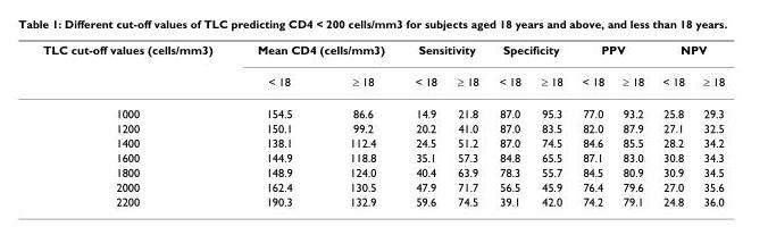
<table><thead><tr><td rowspan="2">TLC cut-off values (cells/mm3)</td><td colspan="2">Mean CD4 (cells/mm3)</td><td colspan="2">Sensitivity</td><td colspan="2">Specificity</td><td colspan="2">PPV</td><td colspan="2">NPV</td></tr><tr><td>&lt; 18</td><td>≥ 18</td><td>&lt; 18</td><td>≥ 18</td><td>&lt; 18</td><td>≥ 18</td><td>&lt; 18</td><td>≥ 18</td><td>&lt; 18</td><td>≥ 18</td></tr></thead><tbody><tr><td>1000</td><td>154.5</td><td>86.6</td><td>14.9</td><td>21.8</td><td>87.0</td><td>95.3</td><td>77.0</td><td>93.2</td><td>25.8</td><td>29.3</td></tr><tr><td>1200</td><td>150.1</td><td>99.2</td><td>20.2</td><td>41.0</td><td>87.0</td><td>83.5</td><td>82.0</td><td>87.9</td><td>27.1</td><td>32.5</td></tr><tr><td>1400</td><td>138.1</td><td>112.4</td><td>24.5</td><td>51.2</td><td>87.0</td><td>74.5</td><td>84.6</td><td>85.5</td><td>28.2</td><td>34.2</td></tr><tr><td>1600</td><td>144.9</td><td>118.8</td><td>35.1</td><td>57.3</td><td>84.8</td><td>65.5</td><td>87.1</td><td>83.0</td><td>30.8</td><td>34.3</td></tr><tr><td>1800</td><td>148.9</td><td>124.0</td><td>40.4</td><td>63.9</td><td>78.3</td><td>55.7</td><td>84.5</td><td>80.9</td><td>30.9</td><td>34.5</td></tr><tr><td>2000</td><td>162.4</td><td>130.5</td><td>47.9</td><td>71.7</td><td>56.5</td><td>45.9</td><td>76.4</td><td>79.6</td><td>27.0</td><td>35.6</td></tr><tr><td>2200</td><td>190.3</td><td>132.9</td><td>59.6</td><td>74.5</td><td>39.1</td><td>42.0</td><td>74.2</td><td>79.1</td><td>24.8</td><td>36.0</td></tr></tbody></table>